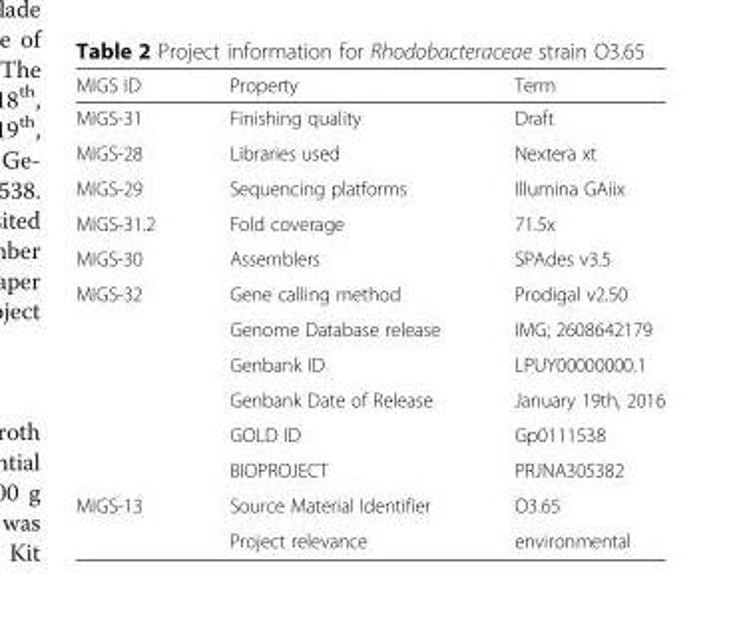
<table><thead><tr><td>MIGS ID</td><td>Property</td><td>Term</td></tr></thead><tbody><tr><td>MIGS-31</td><td>Finishing quality</td><td>Draft</td></tr><tr><td>MIGS-28</td><td>Libraries used</td><td>Nextera xt</td></tr><tr><td>MIGS-29</td><td>Sequencing platforms</td><td>Illumina GAiix</td></tr><tr><td>MIGS-31.2</td><td>Fold coverage</td><td>71.5x</td></tr><tr><td>MIGS-30</td><td>Assemblers</td><td>SPAdes v3.5</td></tr><tr><td rowspan="6">MIGS-32</td><td>Gene calling method</td><td>Prodigal v2.50</td></tr><tr><td>Genome Database release</td><td>IMG; 2608642179</td></tr><tr><td>Genbank ID</td><td>LPUY00000000.1</td></tr><tr><td>Genbank Date of Release</td><td>January 19th, 2016</td></tr><tr><td>GOLD ID</td><td>Gp0111538</td></tr><tr><td>BIOPROJECT</td><td>PRJNA305382</td></tr><tr><td rowspan="2">MIGS-13</td><td>Source Material Identifier</td><td>O3.65</td></tr><tr><td>Project relevance</td><td>environmental</td></tr></tbody></table>